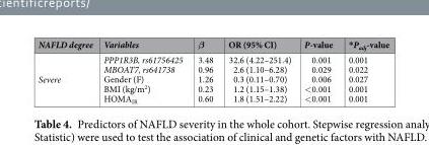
<table><thead><tr><td>NAFLD degree</td><td>Variables</td><td>β</td><td>OR (95% CI)</td><td>P-value</td><td>*P<sub>adj</sub>-value</td></tr></thead><tbody><tr><td>Severe</td><td>PPP1R3B, rs61756425 MBOAT7, rs641738 Gender (F) BMI (kg/m<sup>2</sup>) HOMA<sub>IR</sub></td><td>3.48 0.96 1.26 0.23 0.60</td><td>32.6 (4.22–251.4) 2.6 (1.10–6.28) 0.3 (0.11–0.70) 1.2 (1.15–1.38) 1.8 (1.51–2.22)</td><td>0.001 0.029 0.006 &lt;0.001 &lt;0.001</td><td>0.001 0.022 0.027 0.001 0.001</td></tr></tbody></table>